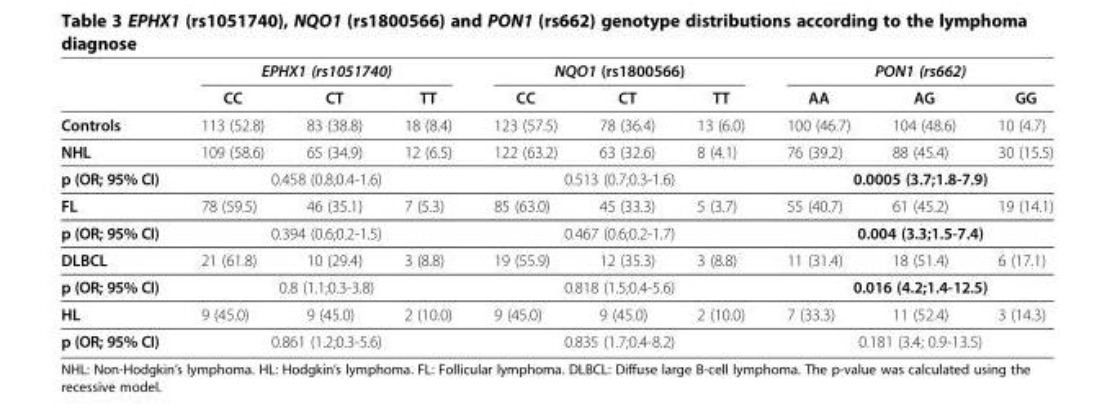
<table><thead><tr><td rowspan="2"></td><td colspan="3">EPHX1 (rs1051740)</td><td colspan="3">NQO1 (rs1800566)</td><td colspan="3">PON1 (rs662)</td></tr><tr><td>CC</td><td>CT</td><td>TT</td><td>CC</td><td>CT</td><td>TT</td><td>AA</td><td>AG</td><td>GG</td></tr></thead><tbody><tr><td>Controls</td><td>113 (52.8)</td><td>83 (38.8)</td><td>18 (8.4)</td><td>123 (57.5)</td><td>78 (36.4)</td><td>13 (6.0)</td><td>100 (46.7)</td><td>104 (48.6)</td><td>10 (4.7)</td></tr><tr><td>NHL</td><td>109 (58.6)</td><td>65 (34.9)</td><td>12 (6.5)</td><td>122 (63.2)</td><td>63 (32.6)</td><td>8 (4.1)</td><td>76 (39.2)</td><td>88 (45.4)</td><td>30 (15.5)</td></tr><tr><td>p (OR; 95% CI)</td><td colspan="3">0.458 (0.8;0.4-1.6)</td><td colspan="3">0.513 (0.7;0.3-1.6)</td><td colspan="3">0.0005 (3.7;1.8-7.9)</td></tr><tr><td>FL</td><td>78 (59.5)</td><td>46 (35.1)</td><td>7 (5.3)</td><td>85 (63.0)</td><td>45 (33.3)</td><td>5 (3.7)</td><td>55 (40.7)</td><td>61 (45.2)</td><td>19 (14.1)</td></tr><tr><td>p (OR; 95% CI)</td><td colspan="3">0.394 (0.6;0.2-1.5)</td><td colspan="3">0.467 (0.6;0.2-1.7)</td><td colspan="3">0.004 (3.3;1.5-7.4)</td></tr><tr><td>DLBCL</td><td>21 (61.8)</td><td>10 (29.4)</td><td>3 (8.8)</td><td>19 (55.9)</td><td>12 (35.3)</td><td>3 (8.8)</td><td>11 (31.4)</td><td>18 (51.4)</td><td>6 (17.1)</td></tr><tr><td>p (OR; 95% CI)</td><td colspan="3">0.8 (1.1;0.3-3.8)</td><td colspan="3">0.818 (1.5;0.4-5.6)</td><td colspan="3">0.016 (4.2;1.4-12.5)</td></tr><tr><td>HL</td><td>9 (45.0)</td><td>9 (45.0)</td><td>2 (10.0)</td><td>9 (45.0)</td><td>9 (45.0)</td><td>2 (10.0)</td><td>7 (33.3)</td><td>11 (52.4)</td><td>3 (14.3)</td></tr><tr><td>p (OR; 95% CI)</td><td colspan="3">0.861 (1.2;0.3-5.6)</td><td colspan="3">0.835 (1.7;0.4-8.2)</td><td colspan="3">0.181 (3.4; 0.9-13.5)</td></tr></tbody></table>